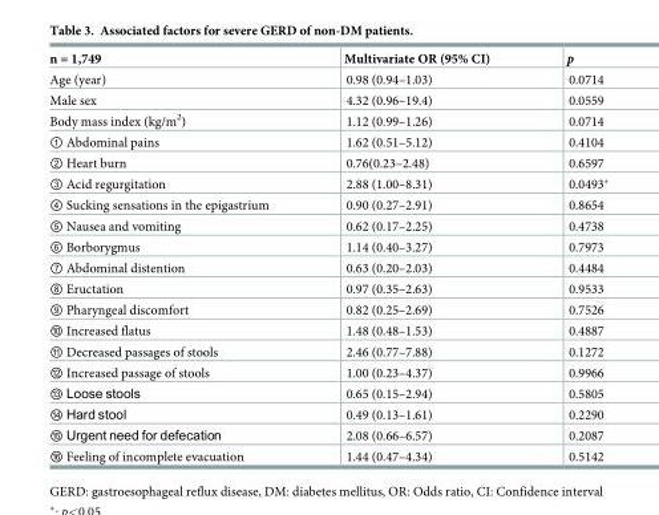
<table><thead><tr><td>n = 1,749</td><td>Multivariate OR (95% CI)</td><td>p</td></tr></thead><tbody><tr><td>Age (year)</td><td>0.98 (0.94–1.03)</td><td>0.0714</td></tr><tr><td>Male sex</td><td>4.32 (0.96–19.4)</td><td>0.0559</td></tr><tr><td>Body mass index (kg/m<sup>2</sup>)</td><td>1.12 (0.99–1.26)</td><td>0.0714</td></tr><tr><td>① Abdominal pains</td><td>1.62 (0.51–5.12)</td><td>0.4104</td></tr><tr><td>② Heart burn</td><td>0.76(0.23–2.48)</td><td>0.6597</td></tr><tr><td>③ Acid regurgitation</td><td>2.88 (1.00–8.31)</td><td>0.0493*</td></tr><tr><td>④ Sucking sensations in the epigastrium</td><td>0.90 (0.27–2.91)</td><td>0.8654</td></tr><tr><td>⑤ Nausea and vomiting</td><td>0.62 (0.17–2.25)</td><td>0.4738</td></tr><tr><td>⑥ Borborygmus</td><td>1.14 (0.40–3.27)</td><td>0.7973</td></tr><tr><td>⑦ Abdominal distention</td><td>0.63 (0.20–2.03)</td><td>0.4484</td></tr><tr><td>⑧ Eructation</td><td>0.97 (0.35–2.63)</td><td>0.9533</td></tr><tr><td>⑨ Pharyngeal discomfort</td><td>0.82 (0.25–2.69)</td><td>0.7526</td></tr><tr><td>⑩ Increased flatus</td><td>1.48 (0.48–1.53)</td><td>0.4887</td></tr><tr><td>⑪ Decreased passages of stools</td><td>2.46 (0.77–7.88)</td><td>0.1272</td></tr><tr><td>⑫ Increased passage of stools</td><td>1.00 (0.23–4.37)</td><td>0.9966</td></tr><tr><td>⑬ Loose stools</td><td>0.65 (0.15–2.94)</td><td>0.5805</td></tr><tr><td>⑭ Hard stool</td><td>0.49 (0.13–1.61)</td><td>0.2290</td></tr><tr><td>⑮ Urgent need for defecation</td><td>2.08 (0.66–6.57)</td><td>0.2087</td></tr><tr><td>⑯ Feeling of incomplete evacuation</td><td>1.44 (0.47–4.34)</td><td>0.5142</td></tr></tbody></table>